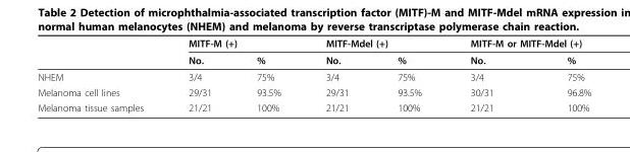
<table><thead><tr><td rowspan="2"></td><td colspan="2">MITF-M (+)</td><td colspan="2">MITF-Mdel (+)</td><td colspan="2">MITF-M or MITF-Mdel (+)</td></tr><tr><td>No.</td><td>%</td><td>No.</td><td>%</td><td>No.</td><td>%</td></tr></thead><tbody><tr><td>NHEM</td><td>3/4</td><td>75%</td><td>3/4</td><td>75%</td><td>3/4</td><td>75%</td></tr><tr><td>Melanoma cell lines</td><td>29/31</td><td>93.5%</td><td>29/31</td><td>93.5%</td><td>30/31</td><td>96.8%</td></tr><tr><td>Melanoma tissue samples</td><td>21/21</td><td>100%</td><td>21/21</td><td>100%</td><td>21/21</td><td>100%</td></tr></tbody></table>